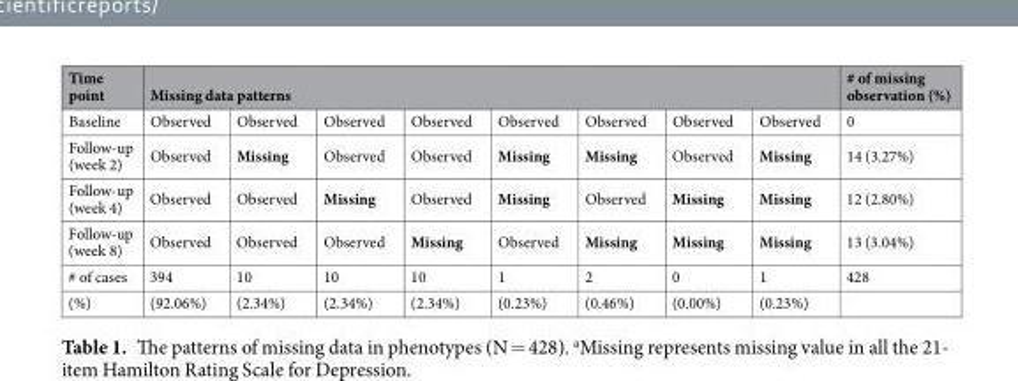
<table><thead><tr><td rowspan="2">Time point Baseline</td><td colspan="8">Missing data patterns</td><td rowspan="2"># of missing observation (%) 0</td></tr><tr><td>Observed</td><td>Observed</td><td>Observed</td><td>Observed</td><td>Observed</td><td>Observed</td><td>Observed</td><td>Observed</td></tr></thead><tbody><tr><td>Follow-up (week 2)</td><td>Observed</td><td>Missing</td><td>Observed</td><td>Observed</td><td>Missing</td><td>Missing</td><td>Observed</td><td>Missing</td><td>14 (3.27%)</td></tr><tr><td>Follow-up (week 4)</td><td>Observed</td><td>Observed</td><td>Missing</td><td>Observed</td><td>Missing</td><td>Observed</td><td>Missing</td><td>Missing</td><td>12 (2.80%)</td></tr><tr><td>Follow-up (week 8)</td><td>Observed</td><td>Observed</td><td>Observed</td><td>Missing</td><td>Observed</td><td>Missing</td><td>Missing</td><td>Missing</td><td>13 (3.04%)</td></tr><tr><td># of cases</td><td>394</td><td>10</td><td>10</td><td>10</td><td>1</td><td>2</td><td>0</td><td>1</td><td>428</td></tr><tr><td>(%)</td><td>(92.06%)</td><td>(2.34%)</td><td>(2.34%)</td><td>(2.34%)</td><td>(0.23%)</td><td>(0.46%)</td><td>(0.00%)</td><td>(0.23%)</td><td></td></tr></tbody></table>